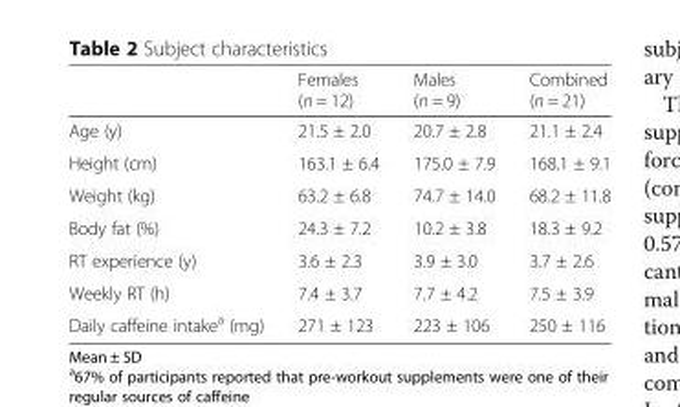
<table><thead><tr><td></td><td>Females (n = 12)</td><td>Males (n = 9)</td><td>Combined (n = 21)</td></tr></thead><tbody><tr><td>Age (y)</td><td>21.5 ± 2.0</td><td>20.7 ± 2.8</td><td>21.1 ± 2.4</td></tr><tr><td>Height (cm)</td><td>163.1 ± 6.4</td><td>175.0 ± 7.9</td><td>168.1 ± 9.1</td></tr><tr><td>Weight (kg)</td><td>63.2 ± 6.8</td><td>74.7 ± 14.0</td><td>68.2 ± 11.8</td></tr><tr><td>Body fat (%)</td><td>24.3 ± 7.2</td><td>10.2 ± 3.8</td><td>18.3 ± 9.2</td></tr><tr><td>RT experience (y)</td><td>3.6 ± 2.3</td><td>3.9 ± 3.0</td><td>3.7 ± 2.6</td></tr><tr><td>Weekly RT (h)</td><td>7.4 ± 3.7</td><td>7.7 ± 4.2</td><td>7.5 ± 3.9</td></tr><tr><td>Daily caffeine intake<sup>a</sup> (mg)</td><td>271 ± 123</td><td>223 ± 106</td><td>250 ± 116</td></tr></tbody></table>